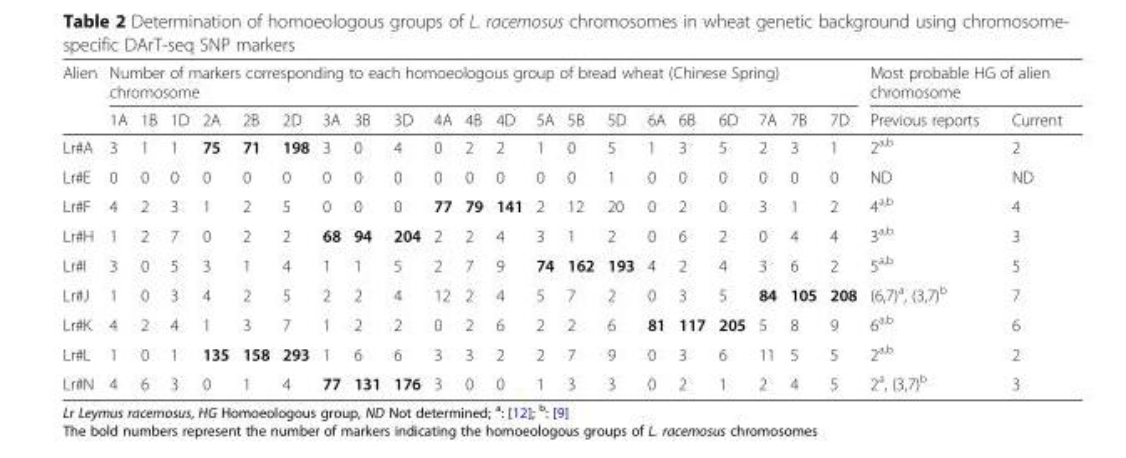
<table><thead><tr><td rowspan="2">Alien</td><td colspan="21">Number of markers corresponding to each homoeologous group of bread wheat (Chinese Spring) chromosome</td><td colspan="2">Most probable HG of alien chromosome</td></tr><tr><td>1A</td><td>1B</td><td>1D</td><td>2A</td><td>2B</td><td>2D</td><td>3A</td><td>3B</td><td>3D</td><td>4A</td><td>4B</td><td>4D</td><td>5A</td><td>5B</td><td>5D</td><td>6A</td><td>6B</td><td>6D</td><td>7A</td><td>7B</td><td>7D</td><td>Previous reports</td><td>Current</td></tr></thead><tbody><tr><td>Lr#A</td><td>3</td><td>1</td><td>1</td><td>75</td><td>71</td><td>198</td><td>3</td><td>0</td><td>4</td><td>0</td><td>2</td><td>2</td><td>1</td><td>0</td><td>5</td><td>1</td><td>3</td><td>5</td><td>2</td><td>3</td><td>1</td><td>2<sup>a,b</sup></td><td>2</td></tr><tr><td>Lr#E</td><td>0</td><td>0</td><td>0</td><td>0</td><td>0</td><td>0</td><td>0</td><td>0</td><td>0</td><td>0</td><td>0</td><td>0</td><td>0</td><td>0</td><td>1</td><td>0</td><td>0</td><td>0</td><td>0</td><td>0</td><td>0</td><td>ND</td><td>ND</td></tr><tr><td>Lr#F</td><td>4</td><td>2</td><td>3</td><td>1</td><td>2</td><td>5</td><td>0</td><td>0</td><td>0</td><td>77</td><td>79</td><td>141</td><td>2</td><td>12</td><td>20</td><td>0</td><td>2</td><td>0</td><td>3</td><td>1</td><td>2</td><td>4<sup>a,b</sup></td><td>4</td></tr><tr><td>Lr#H</td><td>1</td><td>2</td><td>7</td><td>0</td><td>2</td><td>2</td><td>68</td><td>94</td><td>204</td><td>2</td><td>2</td><td>4</td><td>3</td><td>1</td><td>2</td><td>0</td><td>6</td><td>2</td><td>0</td><td>4</td><td>4</td><td>3<sup>a,b</sup></td><td>3</td></tr><tr><td>Lr#I</td><td>3</td><td>0</td><td>5</td><td>3</td><td>1</td><td>4</td><td>1</td><td>1</td><td>5</td><td>2</td><td>7</td><td>9</td><td>74</td><td>162</td><td>193</td><td>4</td><td>2</td><td>4</td><td>3</td><td>6</td><td>2</td><td>5<sup>a,b</sup></td><td>5</td></tr><tr><td>Lr#J</td><td>1</td><td>0</td><td>3</td><td>4</td><td>2</td><td>5</td><td>2</td><td>2</td><td>4</td><td>12</td><td>2</td><td>4</td><td>5</td><td>7</td><td>2</td><td>0</td><td>3</td><td>5</td><td>84</td><td>105</td><td>208</td><td>(6,7)<sup>a</sup>, (3,7)<sup>b</sup></td><td>7</td></tr><tr><td>Lr#K</td><td>4</td><td>2</td><td>4</td><td>1</td><td>3</td><td>7</td><td>1</td><td>2</td><td>2</td><td>0</td><td>2</td><td>6</td><td>2</td><td>2</td><td>6</td><td>81</td><td>117</td><td>205</td><td>5</td><td>8</td><td>9</td><td>6<sup>a,b</sup></td><td>6</td></tr><tr><td>Lr#L</td><td>1</td><td>0</td><td>1</td><td>135</td><td>158</td><td>293</td><td>1</td><td>6</td><td>6</td><td>3</td><td>3</td><td>2</td><td>2</td><td>7</td><td>9</td><td>0</td><td>3</td><td>6</td><td>11</td><td>5</td><td>5</td><td>2<sup>a,b</sup></td><td>2</td></tr><tr><td>Lr#N</td><td>4</td><td>6</td><td>3</td><td>0</td><td>1</td><td>4</td><td>77</td><td>131</td><td>176</td><td>3</td><td>0</td><td>0</td><td>1</td><td>3</td><td>3</td><td>0</td><td>2</td><td>1</td><td>2</td><td>4</td><td>5</td><td>2<sup>a</sup>, (3,7)<sup>b</sup></td><td>3</td></tr></tbody></table>